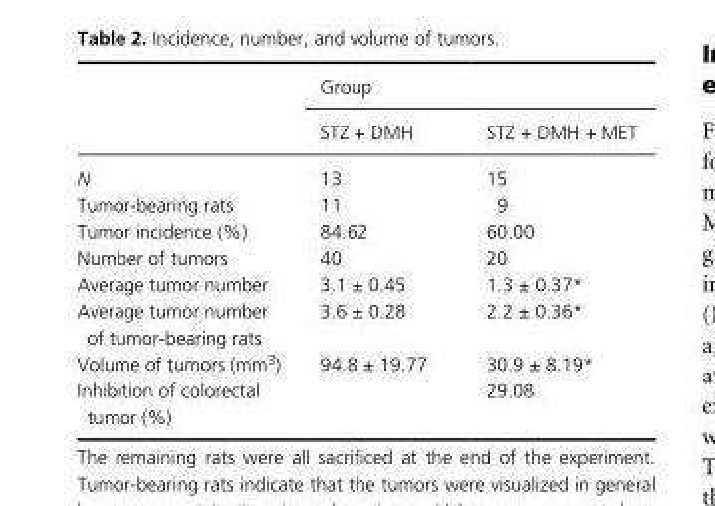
<table><thead><tr><td rowspan="2"></td><td colspan="2">Group</td></tr><tr><td>STZ + DMH</td><td>STZ + DMH + MET</td></tr></thead><tbody><tr><td>N</td><td>13</td><td>15</td></tr><tr><td>Tumor- bearing rats</td><td>11</td><td>9</td></tr><tr><td>Tumor incidence (%)</td><td>84.62</td><td>60.00</td></tr><tr><td>Number of tumors</td><td>40</td><td>20</td></tr><tr><td>Average tumor number</td><td>3.1 ± 0.45</td><td>1.3 ± 0.37*</td></tr><tr><td>Average tumor number of tumor- bearing rats</td><td>3.6 ± 0.28</td><td>2.2 ± 0.36*</td></tr><tr><td>Volume of tumors (mm<sup>3</sup>)</td><td>94.8 ± 19.77</td><td>30.9 ± 8.19*</td></tr><tr><td>Inhibition of colorectal tumor (%)</td><td></td><td>29.08</td></tr></tbody></table>